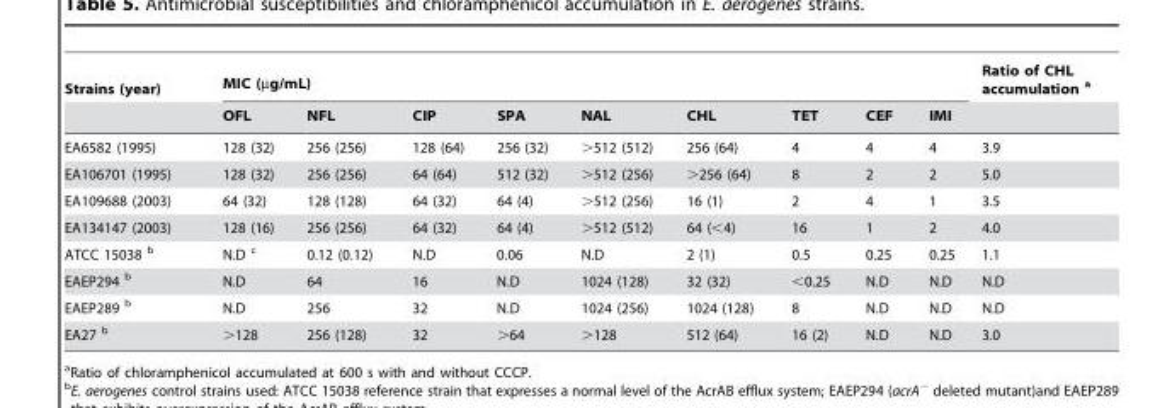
<table><thead><tr><td rowspan="2">Strains (year)</td><td colspan="9">MIC (µg/mL)</td><td rowspan="2">Ratio of CHL accumulation a</td></tr><tr><td>OFL</td><td>NFL</td><td>CIP</td><td>SPA</td><td>NAL</td><td>CHL</td><td>TET</td><td>CEF</td><td>IMI</td></tr></thead><tbody><tr><td>EA6582 (1995)</td><td>128 (32)</td><td>256 (256)</td><td>128 (64)</td><td>256 (32)</td><td>&gt;512 (512)</td><td>256 (64)</td><td>4</td><td>4</td><td>4</td><td>3.9</td></tr><tr><td>EA106701 (1995)</td><td>128 (32)</td><td>256 (256)</td><td>64 (64)</td><td>512 (32)</td><td>&gt;512 (256)</td><td>&gt;256 (64)</td><td>8</td><td>2</td><td>2</td><td>5.0</td></tr><tr><td>EA109688 (2003)</td><td>64 (32)</td><td>128 (128)</td><td>64 (32)</td><td>64 (4)</td><td>&gt;512 (256)</td><td>16 (1)</td><td>2</td><td>4</td><td>1</td><td>3.5</td></tr><tr><td>EA134147 (2003)</td><td>128 (16)</td><td>256 (256)</td><td>64 (32)</td><td>64 (4)</td><td>&gt;512 (512)</td><td>64 (&lt;4)</td><td>16</td><td>1</td><td>2</td><td>4.0</td></tr><tr><td>ATCC 15038 b</td><td>N.D c</td><td>0.12 (0.12)</td><td>N.D</td><td>0.06</td><td>N.D</td><td>2 (1)</td><td>0.5</td><td>0.25</td><td>0.25</td><td>1.1</td></tr><tr><td>EAEP294 b</td><td>N.D</td><td>64</td><td>16</td><td>N.D</td><td>1024 (128)</td><td>32 (32)</td><td>&lt;0.25</td><td>N.D</td><td>N.D</td><td>N.D</td></tr><tr><td>EAEP289 b</td><td>N.D</td><td>256</td><td>32</td><td>N.D</td><td>1024 (256)</td><td>1024 (128)</td><td>8</td><td>N.D</td><td>N.D</td><td>N.D</td></tr><tr><td>EA27 b</td><td>&gt;128</td><td>256 (128)</td><td>32</td><td>&gt;64</td><td>&gt;128</td><td>512 (64)</td><td>16 (2)</td><td>N.D</td><td>N.D</td><td>3.0</td></tr></tbody></table>